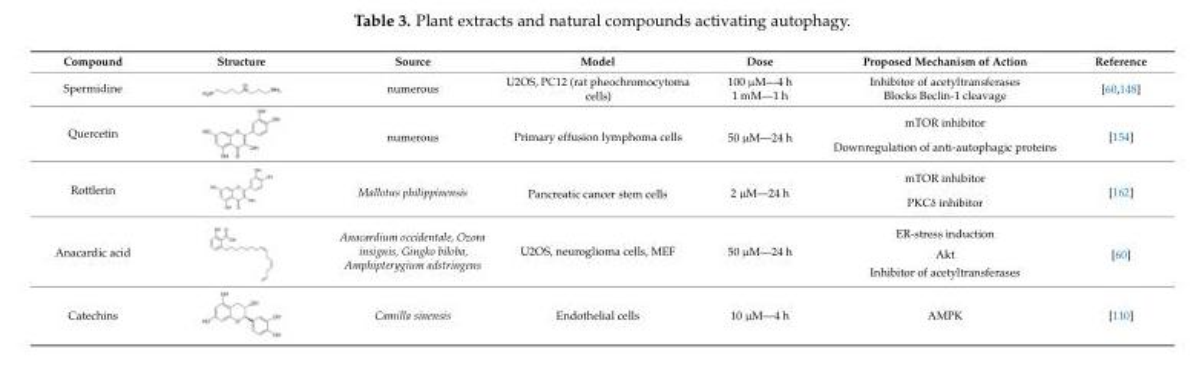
<table><thead><tr><td>Compound</td><td>Structure</td><td>Source</td><td>Model</td><td>Dose</td><td>Proposed Mechanism of Action</td><td>Reference</td></tr></thead><tbody><tr><td rowspan="2">Spermidine</td><td rowspan="2"></td><td rowspan="2">numerous</td><td rowspan="2">U2OS, PC12 (rat pheochromocytoma cells)</td><td>100 µM—4 h</td><td>Inhibitor of acetyltransferases</td><td rowspan="2">[60,148]</td></tr><tr><td>1 mM—1 h</td><td>Blocks Beclin-1 cleavage</td></tr><tr><td rowspan="2">Quercetin</td><td rowspan="2"></td><td rowspan="2">numerous</td><td rowspan="2">Primary effusion lymphoma cells</td><td rowspan="2">50 µM—24 h</td><td>mTOR inhibitor</td><td rowspan="2">[154]</td></tr><tr><td>Downregulation of anti-autophagic proteins</td></tr><tr><td rowspan="2">Rottlerin</td><td rowspan="2"></td><td rowspan="2">Mallotus philippinensis</td><td rowspan="2">Pancreatic cancer stem cells</td><td rowspan="2">2 µM—24 h</td><td>mTOR inhibitor</td><td rowspan="2">[162]</td></tr><tr><td>PKCδ inhibitor</td></tr><tr><td rowspan="3">Anacardic acid</td><td rowspan="3"></td><td rowspan="3">Anacardium occidentale, Ozora insignis, Gingko biloba, Amphipterygium adstringens</td><td rowspan="3">U2OS, neuroglioma cells, MEF</td><td rowspan="3">50 µM—24 h</td><td>ER-stress induction</td><td rowspan="3">[60]</td></tr><tr><td>Akt</td></tr><tr><td>Inhibitor of acetyltransferases</td></tr><tr><td>Catechins</td><td></td><td>Camilla sinensis</td><td>Endothelial cells</td><td>10 µM—4 h</td><td>AMPK</td><td>[110]</td></tr></tbody></table>